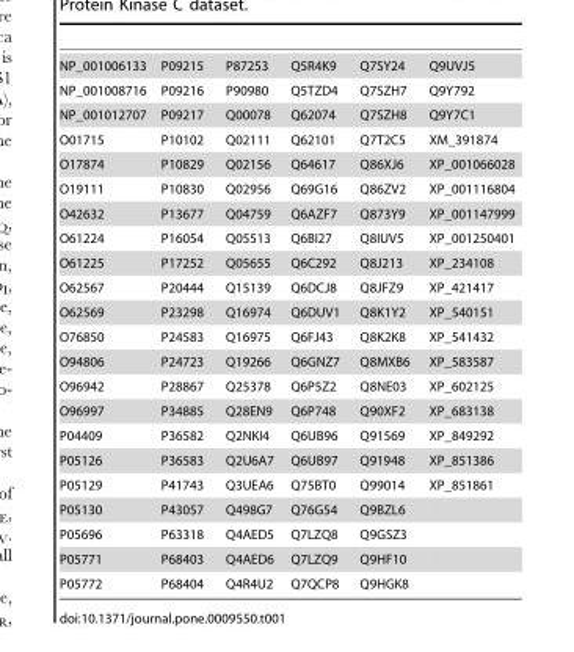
<table><tbody><tr><td>NP_001006133</td><td>P09215</td><td>P87253</td><td>Q5R4K9</td><td>Q7SY24</td><td>Q9UVJ5</td></tr><tr><td>NP_001008716</td><td>P09216</td><td>P90980</td><td>Q5TZD4</td><td>Q7SZH7</td><td>Q9Y792</td></tr><tr><td>NP_001012707</td><td>P09217</td><td>Q00078</td><td>Q62074</td><td>Q7SZH8</td><td>Q9Y7C1</td></tr><tr><td>O01715</td><td>P10102</td><td>Q02111</td><td>Q62101</td><td>Q7T2C5</td><td>XM_391874</td></tr><tr><td>O17874</td><td>P10829</td><td>Q02156</td><td>Q64617</td><td>Q86XJ6</td><td>XP_001066028</td></tr><tr><td>O19111</td><td>P10830</td><td>Q02956</td><td>Q69G16</td><td>Q86ZV2</td><td>XP_001116804</td></tr><tr><td>O42632</td><td>P13677</td><td>Q04759</td><td>Q6AZF7</td><td>Q873Y9</td><td>XP_001147999</td></tr><tr><td>O61224</td><td>P16054</td><td>Q05513</td><td>Q6BI27</td><td>Q8IUV5</td><td>XP_001250401</td></tr><tr><td>O61225</td><td>P17252</td><td>Q05655</td><td>Q6C292</td><td>Q8J213</td><td>XP_234108</td></tr><tr><td>O62567</td><td>P20444</td><td>Q15139</td><td>Q6DCJ8</td><td>Q8JFZ9</td><td>XP_421417</td></tr><tr><td>O62569</td><td>P23298</td><td>Q16974</td><td>Q6DUV1</td><td>Q8K1Y2</td><td>XP_540151</td></tr><tr><td>O76850</td><td>P24583</td><td>Q16975</td><td>Q6FJ43</td><td>Q8K2K8</td><td>XP_541432</td></tr><tr><td>O94806</td><td>P24723</td><td>Q19266</td><td>Q6GNZ7</td><td>Q8MXB6</td><td>XP_583587</td></tr><tr><td>O96942</td><td>P28867</td><td>Q25378</td><td>Q6P5Z2</td><td>Q8NE03</td><td>XP_602125</td></tr><tr><td>O96997</td><td>P34885</td><td>Q28EN9</td><td>Q6P748</td><td>Q90XF2</td><td>XP_683138</td></tr><tr><td>P04409</td><td>P36582</td><td>Q2NKI4</td><td>Q6UB96</td><td>Q91569</td><td>XP_849292</td></tr><tr><td>P05126</td><td>P36583</td><td>Q2U6A7</td><td>Q6UB97</td><td>Q91948</td><td>XP_851386</td></tr><tr><td>P05129</td><td>P41743</td><td>Q3UEA6</td><td>Q75BT0</td><td>Q99014</td><td>XP_851861</td></tr><tr><td>P05130</td><td>P43057</td><td>Q498G7</td><td>Q76G54</td><td>Q9BZL6</td><td></td></tr><tr><td>P05696</td><td>P63318</td><td>Q4AED5</td><td>Q7LZQ8</td><td>Q9GSZ3</td><td></td></tr><tr><td>P05771</td><td>P68403</td><td>Q4AED6</td><td>Q7LZQ9</td><td>Q9HF10</td><td></td></tr><tr><td>P05772</td><td>P68404</td><td>Q4R4U2</td><td>Q7QCP8</td><td>Q9HGK8</td><td></td></tr></tbody></table>